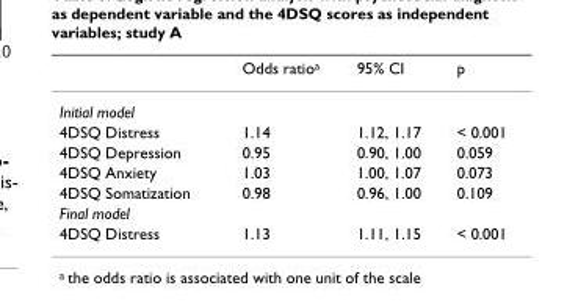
<table><thead><tr><td></td><td>Odds ratio<sup>a</sup></td><td>95% CI</td><td>p</td></tr></thead><tbody><tr><td colspan="4">Initial model</td></tr><tr><td>4DSQ Distress</td><td>1.14</td><td>1.12, 1.17</td><td>&lt; 0.001</td></tr><tr><td>4DSQ Depression</td><td>0.95</td><td>0.90, 1.00</td><td>0.059</td></tr><tr><td>4DSQ Anxiety</td><td>1.03</td><td>1.00, 1.07</td><td>0.073</td></tr><tr><td>4DSQ Somatization</td><td>0.98</td><td>0.96, 1.00</td><td>0.109</td></tr><tr><td colspan="4">Final model</td></tr><tr><td>4DSQ Distress</td><td>1.13</td><td>1.11, 1.15</td><td>&lt; 0.001</td></tr></tbody></table>